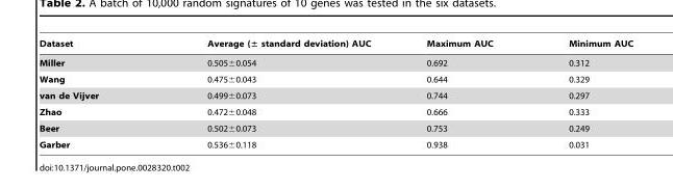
<table><thead><tr><td>Dataset</td><td>Average (± standard deviation) AUC</td><td>Maximum AUC</td><td>Minimum AUC</td></tr></thead><tbody><tr><td>Miller</td><td>0.505±0.054</td><td>0.692</td><td>0.312</td></tr><tr><td>Wang</td><td>0.475±0.043</td><td>0.644</td><td>0.329</td></tr><tr><td>van de Vijver</td><td>0.499±0.073</td><td>0.744</td><td>0.297</td></tr><tr><td>Zhao</td><td>0.472±0.048</td><td>0.666</td><td>0.333</td></tr><tr><td>Beer</td><td>0.502±0.073</td><td>0.753</td><td>0.249</td></tr><tr><td>Garber</td><td>0.536±0.118</td><td>0.938</td><td>0.031</td></tr></tbody></table>